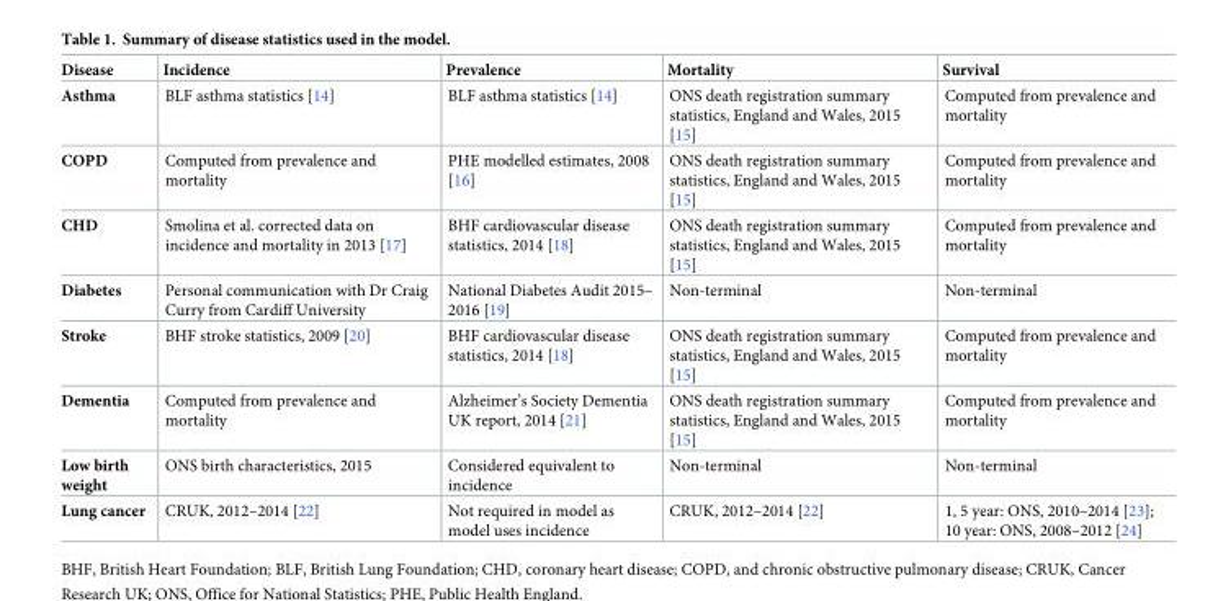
<table><thead><tr><td>Disease</td><td>Incidence</td><td>Prevalence</td><td>Mortality</td><td>Survival</td></tr></thead><tbody><tr><td>Asthma</td><td>BLF asthma statistics [14]</td><td>BLF asthma statistics [14]</td><td>ONS death registration summary statistics, England and Wales, 2015 [15]</td><td>Computed from prevalence and mortality</td></tr><tr><td>COPD</td><td>Computed from prevalence and mortality</td><td>PHE modelled estimates, 2008 [16]</td><td>ONS death registration summary statistics, England and Wales, 2015 [15]</td><td>Computed from prevalence and mortality</td></tr><tr><td>CHD</td><td>Smolina et al. corrected data on incidence and mortality in 2013 [17]</td><td>BHF cardiovascular disease statistics, 2014 [18]</td><td>ONS death registration summary statistics, England and Wales, 2015 [15]</td><td>Computed from prevalence and mortality</td></tr><tr><td>Diabetes</td><td>Personal communication with Dr Craig Curry from Cardiff University</td><td>National Diabetes Audit 2015– 2016 [19]</td><td>Non-terminal</td><td>Non-terminal</td></tr><tr><td>Stroke</td><td>BHF stroke statistics, 2009 [20]</td><td>BHF cardiovascular disease statistics, 2014 [18]</td><td>ONS death registration summary statistics, England and Wales, 2015 [15]</td><td>Computed from prevalence and mortality</td></tr><tr><td>Dementia</td><td>Computed from prevalence and mortality</td><td>Alzheimer’s Society Dementia UK report, 2014 [21]</td><td>ONS death registration summary statistics, England and Wales, 2015 [15]</td><td>Computed from prevalence and mortality</td></tr><tr><td>Low birth weight</td><td>ONS birth characteristics, 2015</td><td>Considered equivalent to incidence</td><td>Non-terminal</td><td>Non-terminal</td></tr><tr><td>Lung cancer</td><td>CRUK, 2012–2014 [22]</td><td>Not required in model as model uses incidence</td><td>CRUK, 2012–2014 [22]</td><td>1, 5 year: ONS, 2010–2014 [23]; 10 year: ONS, 2008–2012 [24]</td></tr></tbody></table>